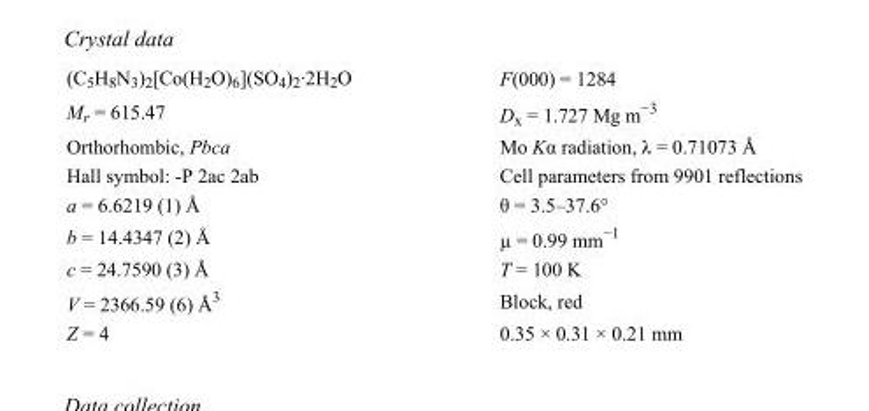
<table><tbody><tr><td>(C<sub>5</sub>H<sub>8</sub>N<sub>3</sub>)<sub>2</sub>[Co(H<sub>2</sub>O)<sub>6</sub>](SO<sub>4</sub>)<sub>2</sub>·2H<sub>2</sub>O</td><td>F(000) = 1284</td></tr><tr><td>M<sub>r</sub> = 615.47</td><td>D<sub>x</sub> = 1.727 Mg m<sup>−3</sup></td></tr><tr><td>Orthorhombic, Pbca</td><td>Mo Kα radiation, λ = 0.71073 Å</td></tr><tr><td>Hall symbol: -P 2ac 2ab</td><td>Cell parameters from 9901 reflections</td></tr><tr><td>a = 6.6219 (1) Å</td><td>θ = 3.5–37.6°</td></tr><tr><td>b = 14.4347 (2) Å</td><td>µ = 0.99 mm<sup>−1</sup></td></tr><tr><td>c = 24.7590 (3) Å</td><td>T = 100 K</td></tr><tr><td>V = 2366.59 (6) Å<sup>3</sup></td><td>Block, red</td></tr><tr><td>Z = 4</td><td>0.35 × 0.31 × 0.21 mm</td></tr></tbody></table>